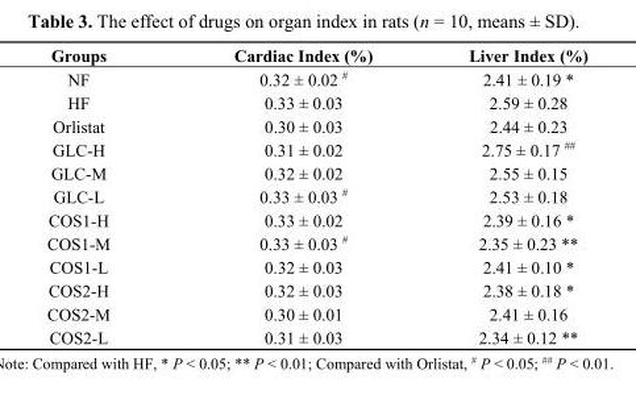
<table><thead><tr><td>Groups</td><td>Cardiac Index (%)</td><td>Liver Index (%)</td></tr></thead><tbody><tr><td>NF</td><td>0.32 ± 0.02 <sup>#</sup></td><td>2.41 ± 0.19 *</td></tr><tr><td>HF</td><td>0.33 ± 0.03</td><td>2.59 ± 0.28</td></tr><tr><td>Orlistat</td><td>0.30 ± 0.03</td><td>2.44 ± 0.23</td></tr><tr><td>GLC-H</td><td>0.31 ± 0.02</td><td>2.75 ± 0.17 <sup>##</sup></td></tr><tr><td>GLC-M</td><td>0.32 ± 0.02</td><td>2.55 ± 0.15</td></tr><tr><td>GLC-L</td><td>0.33 ± 0.03 <sup>#</sup></td><td>2.53 ± 0.18</td></tr><tr><td>COS1-H</td><td>0.33 ± 0.02</td><td>2.39 ± 0.16 *</td></tr><tr><td>COS1-M</td><td>0.33 ± 0.03 <sup>#</sup></td><td>2.35 ± 0.23 **</td></tr><tr><td>COS1-L</td><td>0.32 ± 0.03</td><td>2.41 ± 0.10 *</td></tr><tr><td>COS2-H</td><td>0.32 ± 0.03</td><td>2.38 ± 0.18 *</td></tr><tr><td>COS2-M</td><td>0.30 ± 0.01</td><td>2.41 ± 0.16</td></tr><tr><td>COS2-L</td><td>0.31 ± 0.03</td><td>2.34 ± 0.12 **</td></tr></tbody></table>